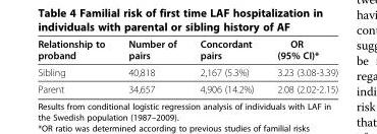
<table><thead><tr><td>Relationship to proband</td><td>Number of pairs</td><td>Concordant pairs</td><td>OR (95% CI)*</td></tr></thead><tbody><tr><td>Sibling</td><td>40,818</td><td>2,167 (5.3%)</td><td>3.23 (3.08-3.39)</td></tr><tr><td>Parent</td><td>34,657</td><td>4,906 (14.2%)</td><td>2.08 (2.02-2.15)</td></tr></tbody></table>